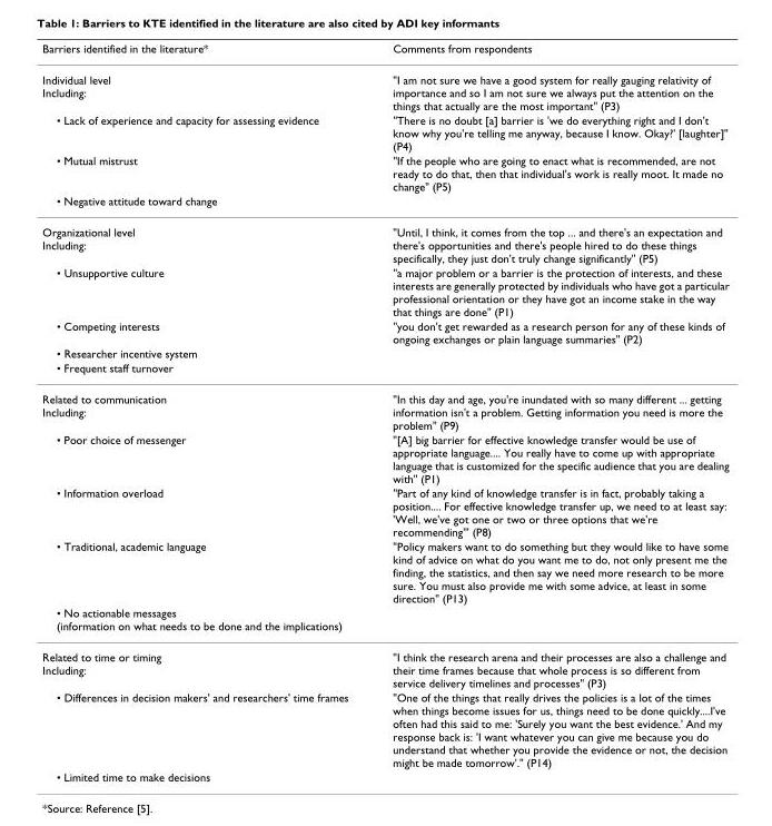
<table><thead><tr><td>Barriers identified in the literature*</td><td>Comments from respondents</td></tr></thead><tbody><tr><td>Individual level Including:</td><td>&quot;I am not sure we have a good system for really gauging relativity of importance and so I am not sure we always put the attention on the things that actually are the most important&quot; (P3)</td></tr><tr><td>• Lack of experience and capacity for assessing evidence</td><td>&quot;There is no doubt [a] barrier is &#x27;we do everything right and I don&#x27;t know why you&#x27;re telling me anyway, because I know. Okay?&#x27; [laughter]&quot; (P4)</td></tr><tr><td>• Mutual mistrust</td><td>&quot;If the people who are going to enact what is recommended, are not ready to do that, then that individual&#x27;s work is really moot. It made no change&quot; (P5)</td></tr><tr><td colspan="2">• Negative attitude toward change</td></tr><tr><td>Organizational level Including:</td><td>&quot;Until, I think, it comes from the top ... and there&#x27;s an expectation and there&#x27;s opportunities and there&#x27;s people hired to do these things specifically, they just don&#x27;t truly change significantly&quot; (P5)</td></tr><tr><td>• Unsupportive culture</td><td>&quot;a major problem or a barrier is the protection of interests, and these interests are generally protected by individuals who have got a particular professional orientation or they have got an income stake in the way that things are done&quot; (P1)</td></tr><tr><td>• Competing interests</td><td>&quot;you don&#x27;t get rewarded as a research person for any of these kinds of ongoing exchanges or plain language summaries&quot; (P2)</td></tr><tr><td colspan="2">• Researcher incentive system</td></tr><tr><td colspan="2">• Frequent staff turnover</td></tr><tr><td>Related to communication Including:</td><td>&quot;In this day and age, you&#x27;re inundated with so many different ... getting information isn&#x27;t a problem. Getting information you need is more the problem&quot; (P9)</td></tr><tr><td>• Poor choice of messenger</td><td>&quot;[A] big barrier for effective knowledge transfer would be use of appropriate language.... You really have to come up with appropriate language that is customized for the specific audience that you are dealing with&quot; (P1)</td></tr><tr><td>• Information overload</td><td>&quot;Part of any kind of knowledge transfer is in fact, probably taking a position.... For effective knowledge transfer up, we need to at least say: &#x27;Well, we&#x27;ve got one or two or three options that we&#x27;re recommending&quot;&#x27; (P8)</td></tr><tr><td>• Traditional, academic language</td><td>&quot;Policy makers want to do something but they would like to have some kind of advice on what do you want me to do, not only present me the finding, the statistics, and then say we need more research to be more sure. You must also provide me with some advice, at least in some direction&quot; (P13)</td></tr><tr><td colspan="2">• No actionable messages (information on what needs to be done and the implications)</td></tr><tr><td>Related to time or timing Including:</td><td>&quot;I think the research arena and their processes are also a challenge and their time frames because that whole process is so different from service delivery timelines and processes&quot; (P3)</td></tr><tr><td>• Differences in decision makers&#x27; and researchers&#x27; time frames</td><td>&quot;One of the things that really drives the policies is a lot of the times when things become issues for us, things need to be done quickly....I&#x27;ve often had this said to me: &#x27;Surely you want the best evidence.&#x27; And my response back is: &#x27;I want whatever you can give me because you do understand that whether you provide the evidence or not, the decision might be made tomorrow&#x27;.&quot; (P14)</td></tr><tr><td>• Limited time to make decisions</td><td></td></tr></tbody></table>